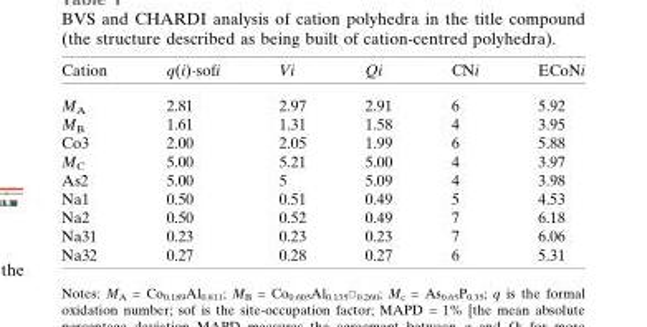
<table><thead><tr><td>Cation</td><td>q(i)·sofi</td><td>Vi</td><td>Qi</td><td>CNi</td><td>ECoNi</td></tr></thead><tbody><tr><td>M<sub>A</sub></td><td>2.81</td><td>2.97</td><td>2.91</td><td>6</td><td>5.92</td></tr><tr><td>M<sub>B</sub></td><td>1.61</td><td>1.31</td><td>1.58</td><td>4</td><td>3.95</td></tr><tr><td>Co3</td><td>2.00</td><td>2.05</td><td>1.99</td><td>6</td><td>5.88</td></tr><tr><td>M<sub>C</sub></td><td>5.00</td><td>5.21</td><td>5.00</td><td>4</td><td>3.97</td></tr><tr><td>As2</td><td>5.00</td><td>5</td><td>5.09</td><td>4</td><td>3.98</td></tr><tr><td>Na1</td><td>0.50</td><td>0.51</td><td>0.49</td><td>5</td><td>4.53</td></tr><tr><td>Na2</td><td>0.50</td><td>0.52</td><td>0.49</td><td>7</td><td>6.18</td></tr><tr><td>Na31</td><td>0.23</td><td>0.23</td><td>0.23</td><td>7</td><td>6.06</td></tr><tr><td>Na32</td><td>0.27</td><td>0.28</td><td>0.27</td><td>6</td><td>5.31</td></tr></tbody></table>